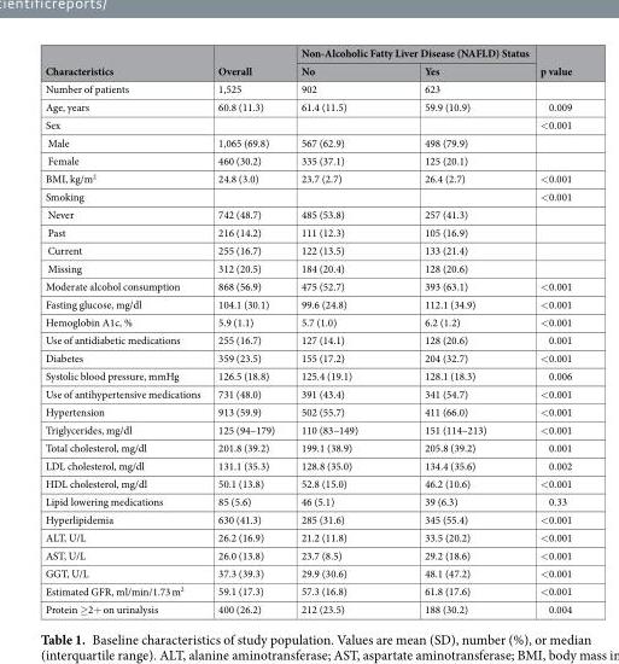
<table><thead><tr><td rowspan="2">Characteristics</td><td rowspan="2">Overall</td><td colspan="2">Non-Alcoholic Fatty Liver Disease (NAFLD) Status</td><td rowspan="2">p value</td></tr><tr><td>No</td><td>Yes</td></tr></thead><tbody><tr><td>Number of patients</td><td>1,525</td><td>902</td><td>623</td><td></td></tr><tr><td>Age, years</td><td>60.8 (11.3)</td><td>61.4 (11.5)</td><td>59.9 (10.9)</td><td>0.009</td></tr><tr><td>Sex</td><td></td><td></td><td></td><td>&lt;0.001</td></tr><tr><td>Male</td><td>1,065 (69.8)</td><td>567 (62.9)</td><td>498 (79.9)</td><td></td></tr><tr><td>Female</td><td>460 (30.2)</td><td>335 (37.1)</td><td>125 (20.1)</td><td></td></tr><tr><td>BMI, kg/m<sup>2</sup></td><td>24.8 (3.0)</td><td>23.7 (2.7)</td><td>26.4 (2.7)</td><td>&lt;0.001</td></tr><tr><td>Smoking</td><td></td><td></td><td></td><td>&lt;0.001</td></tr><tr><td>Never</td><td>742 (48.7)</td><td>485 (53.8)</td><td>257 (41.3)</td><td></td></tr><tr><td>Past</td><td>216 (14.2)</td><td>111 (12.3)</td><td>105 (16.9)</td><td></td></tr><tr><td>Current</td><td>255 (16.7)</td><td>122 (13.5)</td><td>133 (21.4)</td><td></td></tr><tr><td>Missing</td><td>312 (20.5)</td><td>184 (20.4)</td><td>128 (20.6)</td><td></td></tr><tr><td>Moderate alcohol consumption</td><td>868 (56.9)</td><td>475 (52.7)</td><td>393 (63.1)</td><td>&lt;0.001</td></tr><tr><td>Fasting glucose, mg/dl</td><td>104.1 (30.1)</td><td>99.6 (24.8)</td><td>112.1 (34.9)</td><td>&lt;0.001</td></tr><tr><td>Hemoglobin A1c, %</td><td>5.9 (1.1)</td><td>5.7 (1.0)</td><td>6.2 (1.2)</td><td>&lt;0.001</td></tr><tr><td>Use of antidiabetic medications</td><td>255 (16.7)</td><td>127 (14.1)</td><td>128 (20.6)</td><td>0.001</td></tr><tr><td>Diabetes</td><td>359 (23.5)</td><td>155 (17.2)</td><td>204 (32.7)</td><td>&lt;0.001</td></tr><tr><td>Systolic blood pressure, mmHg</td><td>126.5 (18.8)</td><td>125.4 (19.1)</td><td>128.1 (18.3)</td><td>0.006</td></tr><tr><td>Use of antihypertensive medications</td><td>731 (48.0)</td><td>391 (43.4)</td><td>341 (54.7)</td><td>&lt;0.001</td></tr><tr><td>Hypertension</td><td>913 (59.9)</td><td>502 (55.7)</td><td>411 (66.0)</td><td>&lt;0.001</td></tr><tr><td>Triglycerides, mg/dl</td><td>125 (94–179)</td><td>110 (83–149)</td><td>151 (114–213)</td><td>&lt;0.001</td></tr><tr><td>Total cholesterol, mg/dl</td><td>201.8 (39.2)</td><td>199.1 (38.9)</td><td>205.8 (39.2)</td><td>0.001</td></tr><tr><td>LDL cholesterol, mg/dl</td><td>131.1 (35.3)</td><td>128.8 (35.0)</td><td>134.4 (35.6)</td><td>0.002</td></tr><tr><td>HDL cholesterol, mg/dl</td><td>50.1 (13.8)</td><td>52.8 (15.0)</td><td>46.2 (10.6)</td><td>&lt;0.001</td></tr><tr><td>Lipid lowering medications</td><td>85 (5.6)</td><td>46 (5.1)</td><td>39 (6.3)</td><td>0.33</td></tr><tr><td>Hyperlipidemia</td><td>630 (41.3)</td><td>285 (31.6)</td><td>345 (55.4)</td><td>&lt;0.001</td></tr><tr><td>ALT, U/L</td><td>26.2 (16.9)</td><td>21.2 (11.8)</td><td>33.5 (20.2)</td><td>&lt;0.001</td></tr><tr><td>AST, U/L</td><td>26.0 (13.8)</td><td>23.7 (8.5)</td><td>29.2 (18.6)</td><td>&lt;0.001</td></tr><tr><td>GGT, U/L</td><td>37.3 (39.3)</td><td>29.9 (30.6)</td><td>48.1 (47.2)</td><td>&lt;0.001</td></tr><tr><td>Estimated GFR, ml/min/1.73 m<sup>2</sup></td><td>59.1 (17.3)</td><td>57.3 (16.8)</td><td>61.8 (17.6)</td><td>&lt;0.001</td></tr><tr><td>Protein ≥2+ on urinalysis</td><td>400 (26.2)</td><td>212 (23.5)</td><td>188 (30.2)</td><td>0.004</td></tr></tbody></table>